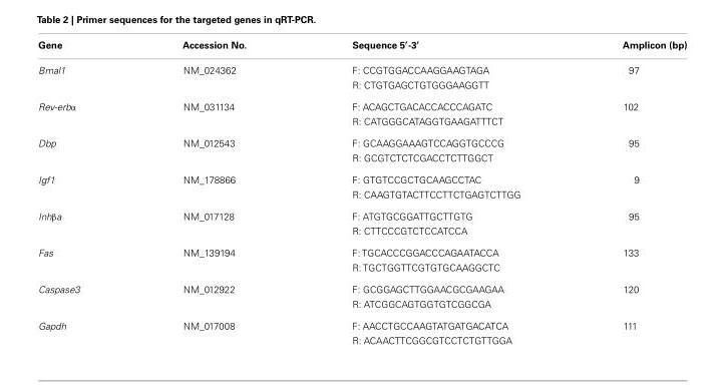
<table><thead><tr><td>Gene</td><td>Accession No.</td><td>Sequence 5′-3′</td><td>Amplicon (bp)</td></tr></thead><tbody><tr><td rowspan="2">Bmal1</td><td>NM_024362</td><td>F: CCGTGGACCAAGGAAGTAGA</td><td>97</td></tr><tr><td></td><td>R: CTGTGAGCTGTGGGAAGGTT</td><td></td></tr><tr><td rowspan="2">Rev-erbα</td><td>NM_031134</td><td>F: ACAGCTGACACCACCCAGATC</td><td>102</td></tr><tr><td></td><td>R: CATGGGCATAGGTGAAGATTTCT</td><td></td></tr><tr><td rowspan="2">Dbp</td><td>NM_012543</td><td>F: GCAAGGAAAGTCCAGGTGCCCG</td><td>95</td></tr><tr><td></td><td>R: GCGTCTCTCGACCTCTTGGCT</td><td></td></tr><tr><td rowspan="2">Igf1</td><td>NM_178866</td><td>F: GTGTCCGCTGCAAGCCTAC</td><td>9</td></tr><tr><td></td><td>R: CAAGTGTACTTCCTTCTGAGTCTTGG</td><td></td></tr><tr><td rowspan="2">Inhβa</td><td>NM_017128</td><td>F: ATGTGCGGATTGCTTGTG</td><td>95</td></tr><tr><td></td><td>R: CTTCCCGTCTCCATCCA</td><td></td></tr><tr><td rowspan="2">Fas</td><td>NM_139194</td><td>F: TGCACCCGGACCCAGAATACCA</td><td>133</td></tr><tr><td></td><td>R: TGCTGGTTCGTGTGCAAGGCTC</td><td></td></tr><tr><td rowspan="2">Caspase3</td><td>NM_012922</td><td>F: GCGGAGCTTGGAACGCGAAGAA</td><td>120</td></tr><tr><td></td><td>R: ATCGGCAGTGGTGTCGGCGA</td><td></td></tr><tr><td rowspan="2">Gapdh</td><td>NM_017008</td><td>F: AACCTGCCAAGTATGATGACATCA</td><td>111</td></tr><tr><td></td><td>R: ACAACTTCGGCGTCCTCTGTTGGA</td><td></td></tr></tbody></table>